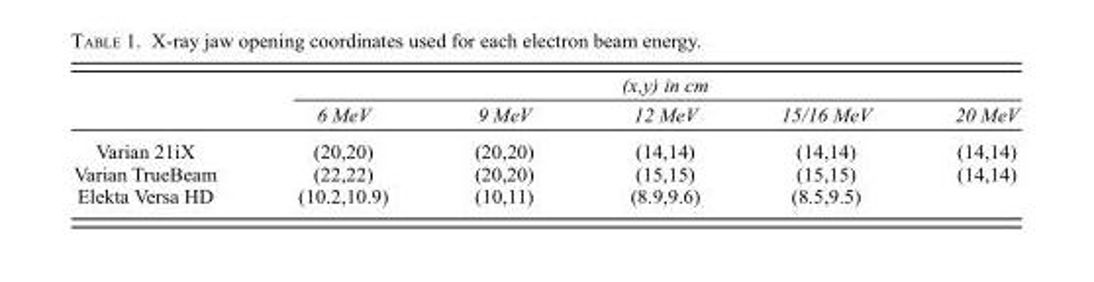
<table><thead><tr><td rowspan="2"></td><td colspan="5">(x,y) in cm</td></tr><tr><td>6 MeV</td><td>9 MeV</td><td>12 MeV</td><td>15/16 MeV</td><td>20 MeV</td></tr></thead><tbody><tr><td>Varian 21iX</td><td>(20,20)</td><td>(20,20)</td><td>(14,14)</td><td>(14,14)</td><td>(14,14)</td></tr><tr><td>Varian TrueBeam</td><td>(22,22)</td><td>(20,20)</td><td>(15,15)</td><td>(15,15)</td><td>(14,14)</td></tr><tr><td>Elekta Versa HD</td><td>(10.2,10.9)</td><td>(10,11)</td><td>(8.9,9.6)</td><td>(8.5,9.5)</td><td></td></tr></tbody></table>